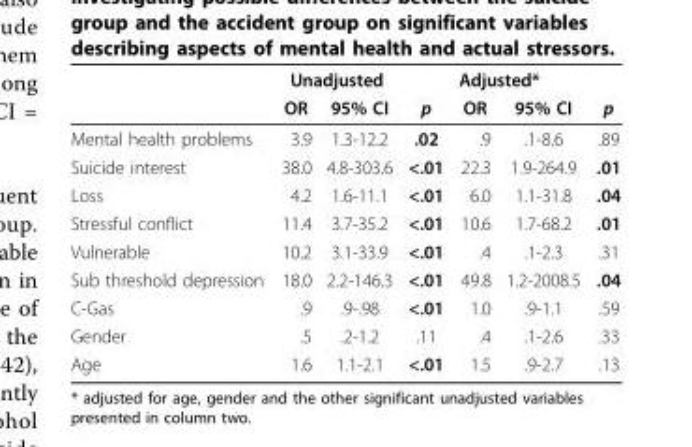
<table><thead><tr><td rowspan="2"></td><td colspan="2">Unadjusted</td><td rowspan="2">p</td><td colspan="2">Adjusted*</td><td rowspan="2">p</td></tr><tr><td>OR</td><td>95% CI</td><td>OR</td><td>95% CI</td></tr></thead><tbody><tr><td>Mental health problems</td><td>3.9</td><td>1.3-12.2</td><td>.02</td><td>.9</td><td>.1-8.6</td><td>.89</td></tr><tr><td>Suicide interest</td><td>38.0</td><td>4.8-303.6</td><td>&lt;.01</td><td>22.3</td><td>1.9-264.9</td><td>.01</td></tr><tr><td>Loss</td><td>4.2</td><td>1.6-11.1</td><td>&lt;.01</td><td>6.0</td><td>1.1-31.8</td><td>.04</td></tr><tr><td>Stressful conflict</td><td>11.4</td><td>3.7-35.2</td><td>&lt;.01</td><td>10.6</td><td>1.7-68.2</td><td>.01</td></tr><tr><td>Vulnerable</td><td>10.2</td><td>3.1-33.9</td><td>&lt;.01</td><td>.4</td><td>.1-2.3</td><td>.31</td></tr><tr><td>Sub threshold depression</td><td>18.0</td><td>2.2-146.3</td><td>&lt;.01</td><td>49.8</td><td>1.2-2008.5</td><td>.04</td></tr><tr><td>C-Gas</td><td>.9</td><td>.9-.98</td><td>&lt;.01</td><td>1.0</td><td>.9-1.1</td><td>.59</td></tr><tr><td>Gender</td><td>.5</td><td>.2-1.2</td><td>.11</td><td>.4</td><td>.1-2.6</td><td>.33</td></tr><tr><td>Age</td><td>1.6</td><td>1.1-2.1</td><td>&lt;.01</td><td>1.5</td><td>.9-2.7</td><td>.13</td></tr></tbody></table>